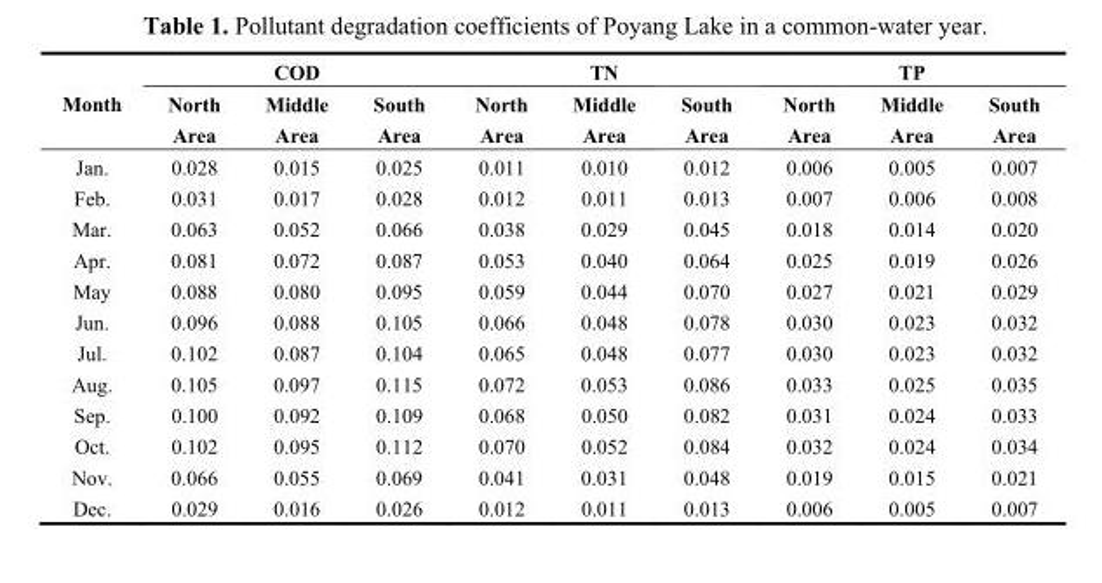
<table><thead><tr><td rowspan="2">Month</td><td colspan="3">COD</td><td colspan="3">TN</td><td colspan="3">TP</td></tr><tr><td>North Area</td><td>Middle Area</td><td>South Area</td><td>North Area</td><td>Middle Area</td><td>South Area</td><td>North Area</td><td>Middle Area</td><td>South Area</td></tr></thead><tbody><tr><td>Jan.</td><td>0.028</td><td>0.015</td><td>0.025</td><td>0.011</td><td>0.010</td><td>0.012</td><td>0.006</td><td>0.005</td><td>0.007</td></tr><tr><td>Feb.</td><td>0.031</td><td>0.017</td><td>0.028</td><td>0.012</td><td>0.011</td><td>0.013</td><td>0.007</td><td>0.006</td><td>0.008</td></tr><tr><td>Mar.</td><td>0.063</td><td>0.052</td><td>0.066</td><td>0.038</td><td>0.029</td><td>0.045</td><td>0.018</td><td>0.014</td><td>0.020</td></tr><tr><td>Apr.</td><td>0.081</td><td>0.072</td><td>0.087</td><td>0.053</td><td>0.040</td><td>0.064</td><td>0.025</td><td>0.019</td><td>0.026</td></tr><tr><td>May</td><td>0.088</td><td>0.080</td><td>0.095</td><td>0.059</td><td>0.044</td><td>0.070</td><td>0.027</td><td>0.021</td><td>0.029</td></tr><tr><td>Jun.</td><td>0.096</td><td>0.088</td><td>0.105</td><td>0.066</td><td>0.048</td><td>0.078</td><td>0.030</td><td>0.023</td><td>0.032</td></tr><tr><td>Jul.</td><td>0.102</td><td>0.087</td><td>0.104</td><td>0.065</td><td>0.048</td><td>0.077</td><td>0.030</td><td>0.023</td><td>0.032</td></tr><tr><td>Aug.</td><td>0.105</td><td>0.097</td><td>0.115</td><td>0.072</td><td>0.053</td><td>0.086</td><td>0.033</td><td>0.025</td><td>0.035</td></tr><tr><td>Sep.</td><td>0.100</td><td>0.092</td><td>0.109</td><td>0.068</td><td>0.050</td><td>0.082</td><td>0.031</td><td>0.024</td><td>0.033</td></tr><tr><td>Oct.</td><td>0.102</td><td>0.095</td><td>0.112</td><td>0.070</td><td>0.052</td><td>0.084</td><td>0.032</td><td>0.024</td><td>0.034</td></tr><tr><td>Nov.</td><td>0.066</td><td>0.055</td><td>0.069</td><td>0.041</td><td>0.031</td><td>0.048</td><td>0.019</td><td>0.015</td><td>0.021</td></tr><tr><td>Dec.</td><td>0.029</td><td>0.016</td><td>0.026</td><td>0.012</td><td>0.011</td><td>0.013</td><td>0.006</td><td>0.005</td><td>0.007</td></tr></tbody></table>